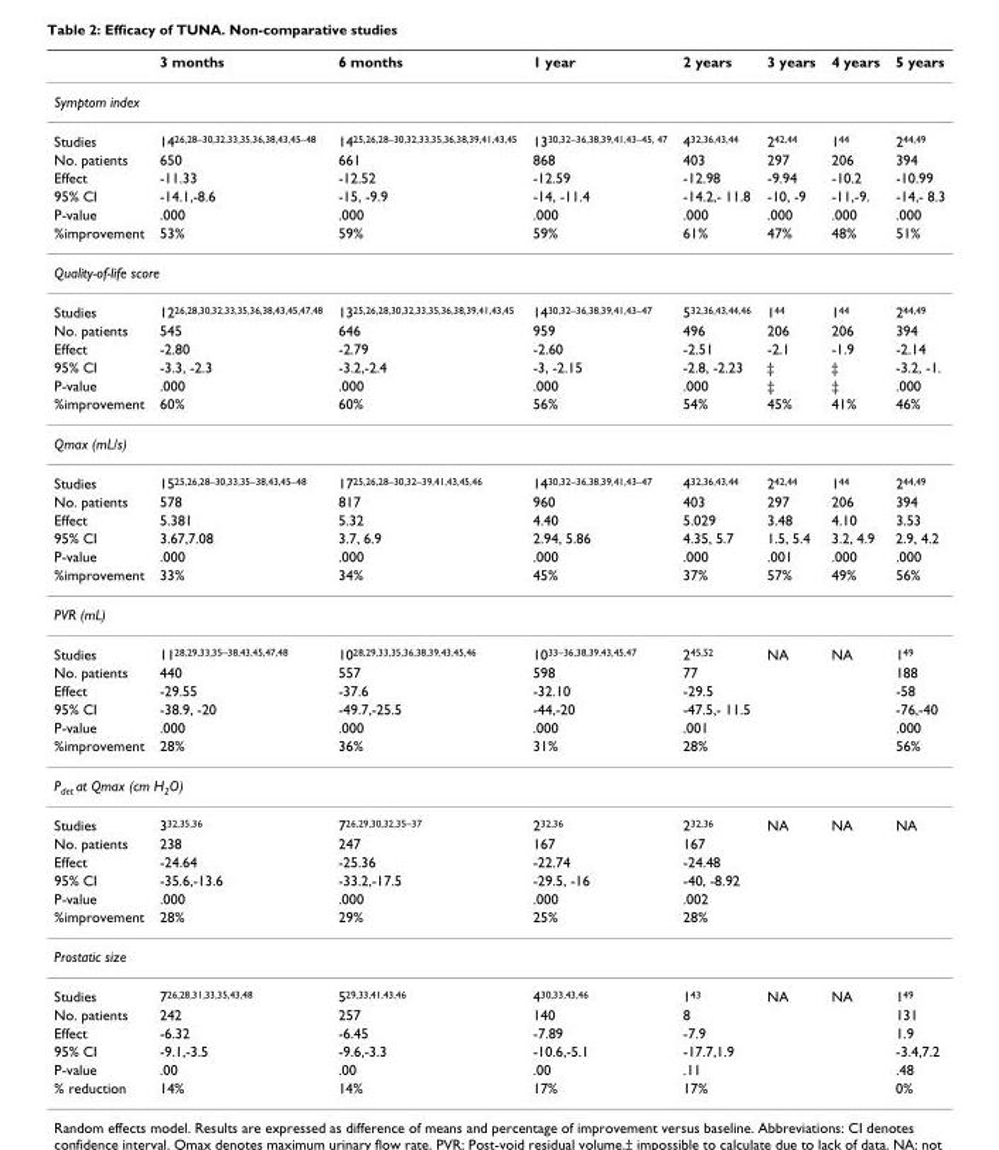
<table><thead><tr><td></td><td>3 months</td><td>6 months</td><td>1 year</td><td>2 years</td><td>3 years</td><td>4 years</td><td>5 years</td></tr></thead><tbody><tr><td colspan="8">Symptom index</td></tr><tr><td>Studies</td><td>1426,28–30,32,33,35,36,38,43,45–48</td><td>1425,26,28–30,32,33,35,36,38,39,41,43,45</td><td>1330,32–36,38,39,41,43–45, 47</td><td>432,36,43,44</td><td>242,44</td><td>144</td><td>244,49</td></tr><tr><td>No. patients</td><td>650</td><td>661</td><td>868</td><td>403</td><td>297</td><td>206</td><td>394</td></tr><tr><td>Effect</td><td>-11.33</td><td>-12.52</td><td>-12.59</td><td>-12.98</td><td>-9.94</td><td>-10.2</td><td>-10.99</td></tr><tr><td>95% CI</td><td>-14.1,-8.6</td><td>-15, -9.9</td><td>-14, -11.4</td><td>-14.2,- 11.8</td><td>-10, -9</td><td>-11,-9.</td><td>-14,- 8.3</td></tr><tr><td>P-value</td><td>.000</td><td>.000</td><td>.000</td><td>.000</td><td>.000</td><td>.000</td><td>.000</td></tr><tr><td>%improvement</td><td>53%</td><td>59%</td><td>59%</td><td>61%</td><td>47%</td><td>48%</td><td>51%</td></tr><tr><td colspan="8">Quality-of-life score</td></tr><tr><td>Studies</td><td>1226,28,30,32,33,35,36,38,43,45,47,48</td><td>1325,26,28,30,32,33,35,36,38,39,41,43,45</td><td>1430,32–36,38,39,41,43–47</td><td>532,36,43,44,46</td><td>144</td><td>144</td><td>244,49</td></tr><tr><td>No. patients</td><td>545</td><td>646</td><td>959</td><td>496</td><td>206</td><td>206</td><td>394</td></tr><tr><td>Effect</td><td>-2.80</td><td>-2.79</td><td>-2.60</td><td>-2.51</td><td>-2.1</td><td>-1.9</td><td>-2.14</td></tr><tr><td>95% CI</td><td>-3.3, -2.3</td><td>-3.2,-2.4</td><td>-3, -2.15</td><td>-2.8, -2.23</td><td>‡</td><td>‡</td><td>-3.2, -1.</td></tr><tr><td>P-value</td><td>.000</td><td>.000</td><td>.000</td><td>.000</td><td>‡</td><td>‡</td><td>.000</td></tr><tr><td>%improvement</td><td>60%</td><td>60%</td><td>56%</td><td>54%</td><td>45%</td><td>41%</td><td>46%</td></tr><tr><td colspan="8">Qmax (mL/s)</td></tr><tr><td>Studies</td><td>1525,26,28–30,33,35–38,43,45–48</td><td>1725,26,28–30,32–39,41,43,45,46</td><td>1430,32–36,38,39,41,43–47</td><td>432,36,43,44</td><td>242,44</td><td>144</td><td>244,49</td></tr><tr><td>No. patients</td><td>578</td><td>817</td><td>960</td><td>403</td><td>297</td><td>206</td><td>394</td></tr><tr><td>Effect</td><td>5.381</td><td>5.32</td><td>4.40</td><td>5.029</td><td>3.48</td><td>4.10</td><td>3.53</td></tr><tr><td>95% CI</td><td>3.67,7.08</td><td>3.7, 6.9</td><td>2.94, 5.86</td><td>4.35, 5.7</td><td>1.5, 5.4</td><td>3.2, 4.9</td><td>2.9, 4.2</td></tr><tr><td>P-value</td><td>.000</td><td>.000</td><td>.000</td><td>.000</td><td>.001</td><td>.000</td><td>.000</td></tr><tr><td>%improvement</td><td>33%</td><td>34%</td><td>45%</td><td>37%</td><td>57%</td><td>49%</td><td>56%</td></tr><tr><td colspan="8">PVR (mL)</td></tr><tr><td>Studies</td><td>1128,29,33,35–38,43,45,47,48</td><td>1028,29,33,35,36,38,39,43,45,46</td><td>1033–36,38,39,43,45,47</td><td>245,52</td><td>NA</td><td>NA</td><td>149</td></tr><tr><td>No. patients</td><td>440</td><td>557</td><td>598</td><td>77</td><td></td><td></td><td>188</td></tr><tr><td>Effect</td><td>-29.55</td><td>-37.6</td><td>-32.10</td><td>-29.5</td><td></td><td></td><td>-58</td></tr><tr><td>95% CI</td><td>-38.9, -20</td><td>-49.7,-25.5</td><td>-44,-20</td><td>-47.5,- 11.5</td><td></td><td></td><td>-76,-40</td></tr><tr><td>P-value</td><td>.000</td><td>.000</td><td>.000</td><td>.001</td><td></td><td></td><td>.000</td></tr><tr><td>%improvement</td><td>28%</td><td>36%</td><td>31%</td><td>28%</td><td></td><td></td><td>56%</td></tr><tr><td colspan="8">Pdet at Qmax (cm H2O)</td></tr><tr><td>Studies</td><td>332,35,36</td><td>726,29,30,32,35–37</td><td>232,36</td><td>232,36</td><td>NA</td><td>NA</td><td>NA</td></tr><tr><td>No. patients</td><td>238</td><td>247</td><td>167</td><td>167</td><td></td><td></td><td></td></tr><tr><td>Effect</td><td>-24.64</td><td>-25.36</td><td>-22.74</td><td>-24.48</td><td></td><td></td><td></td></tr><tr><td>95% CI</td><td>-35.6,-13.6</td><td>-33.2,-17.5</td><td>-29.5, -16</td><td>-40, -8.92</td><td></td><td></td><td></td></tr><tr><td>P-value</td><td>.000</td><td>.000</td><td>.000</td><td>.002</td><td></td><td></td><td></td></tr><tr><td>%improvement</td><td>28%</td><td>29%</td><td>25%</td><td>28%</td><td></td><td></td><td></td></tr><tr><td colspan="8">Prostatic size</td></tr><tr><td>Studies</td><td>726,28,31,33,35,43,48</td><td>529,33,41,43,46</td><td>430,33,43,46</td><td>143</td><td>NA</td><td>NA</td><td>149</td></tr><tr><td>No. patients</td><td>242</td><td>257</td><td>140</td><td>8</td><td></td><td></td><td>131</td></tr><tr><td>Effect</td><td>-6.32</td><td>-6.45</td><td>-7.89</td><td>-7.9</td><td></td><td></td><td>1.9</td></tr><tr><td>95% CI</td><td>-9.1,-3.5</td><td>-9.6,-3.3</td><td>-10.6,-5.1</td><td>-17.7,1.9</td><td></td><td></td><td>-3.4,7.2</td></tr><tr><td>P-value</td><td>.00</td><td>.00</td><td>.00</td><td>.11</td><td></td><td></td><td>.48</td></tr><tr><td>% reduction</td><td>14%</td><td>14%</td><td>17%</td><td>17%</td><td></td><td></td><td>0%</td></tr></tbody></table>